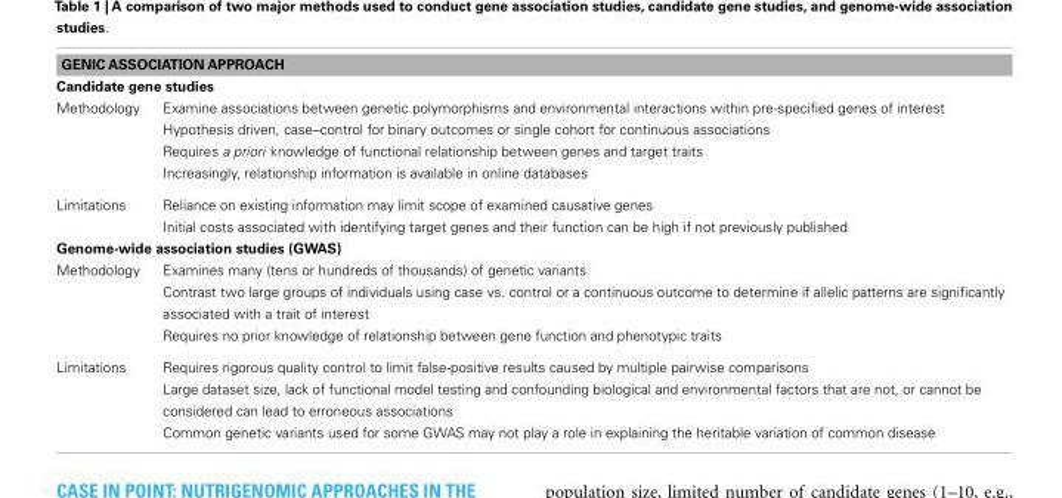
<table><tbody><tr><td colspan="2">GENIC ASSOCIATION APPROACH</td></tr><tr><td colspan="2">Candidate gene studies</td></tr><tr><td rowspan="4">Methodology</td><td>Examine associations between genetic polymorphisms and environmental interactions within pre-specified genes of interest</td></tr><tr><td>Hypothesis driven, case–control for binary outcomes or single cohort for continuous associations</td></tr><tr><td>Requires a priori knowledge of functional relationship between genes and target traits</td></tr><tr><td>Increasingly, relationship information is available in online databases</td></tr><tr><td rowspan="2">Limitations</td><td>Reliance on existing information may limit scope of examined causative genes</td></tr><tr><td>Initial costs associated with identifying target genes and their function can be high if not previously published</td></tr><tr><td colspan="2">Genome-wide association studies (GWAS)</td></tr><tr><td rowspan="3">Methodology</td><td>Examines many (tens or hundreds of thousands) of genetic variants</td></tr><tr><td>Contrast two large groups of individuals using case vs. control or a continuous outcome to determine if allelic patterns are significantly associated with a trait of interest</td></tr><tr><td>Requires no prior knowledge of relationship between gene function and phenotypic traits</td></tr><tr><td rowspan="3">Limitations</td><td>Requires rigorous quality control to limit false-positive results caused by multiple pairwise comparisons</td></tr><tr><td>Large dataset size, lack of functional model testing and confounding biological and environmental factors that are not, or cannot be considered can lead to erroneous associations</td></tr><tr><td>Common genetic variants used for some GWAS may not play a role in explaining the heritable variation of common disease</td></tr></tbody></table>